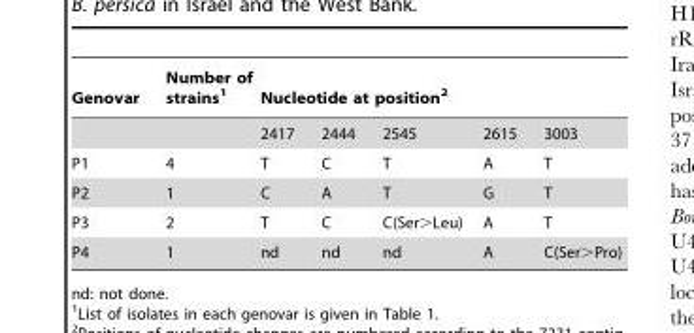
<table><thead><tr><td rowspan="2">Genovar</td><td rowspan="2">Number of strains<sup>1</sup></td><td colspan="5">Nucleotide at position<sup>2</sup></td></tr><tr><td>2417</td><td>2444</td><td>2545</td><td>2615</td><td>3003</td></tr></thead><tbody><tr><td>P1</td><td>4</td><td>T</td><td>C</td><td>T</td><td>A</td><td>T</td></tr><tr><td>P2</td><td>1</td><td>C</td><td>A</td><td>T</td><td>G</td><td>T</td></tr><tr><td>P3</td><td>2</td><td>T</td><td>C</td><td>C(Ser&gt;Leu)</td><td>A</td><td>T</td></tr><tr><td>P4</td><td>1</td><td>nd</td><td>nd</td><td>nd</td><td>A</td><td>C(Ser&gt;Pro)</td></tr></tbody></table>